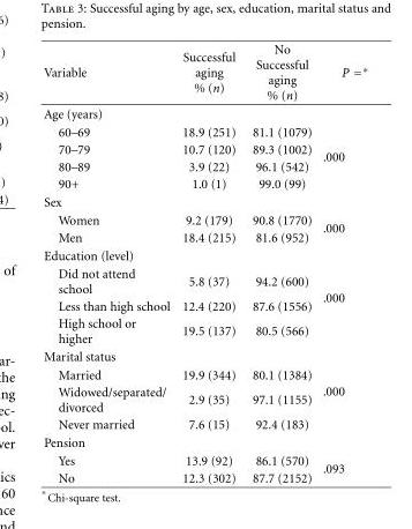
<table><thead><tr><td>Variable</td><td>Successful aging % (n)</td><td>No Successful aging % (n)</td><td>P =∗</td></tr></thead><tbody><tr><td colspan="4">Age (years)</td></tr><tr><td>60–69</td><td>18.9 (251)</td><td>81.1 (1079)</td><td rowspan="4">.000</td></tr><tr><td>70–79</td><td>10.7 (120)</td><td>89.3 (1002)</td></tr><tr><td>80–89</td><td>3.9 (22)</td><td>96.1 (542)</td></tr><tr><td>90+</td><td>1.0 (1)</td><td>99.0 (99)</td></tr><tr><td colspan="4">Sex</td></tr><tr><td>Women</td><td>9.2 (179)</td><td>90.8 (1770)</td><td rowspan="2">.000</td></tr><tr><td>Men</td><td>18.4 (215)</td><td>81.6 (952)</td></tr><tr><td colspan="4">Education (level)</td></tr><tr><td>Did not attend school</td><td>5.8 (37)</td><td>94.2 (600)</td><td rowspan="3">.000</td></tr><tr><td>Less than high school</td><td>12.4 (220)</td><td>87.6 (1556)</td></tr><tr><td>High school or higher</td><td>19.5 (137)</td><td>80.5 (566)</td></tr><tr><td colspan="4">Marital status</td></tr><tr><td>Married</td><td>19.9 (344)</td><td>80.1 (1384)</td><td rowspan="3">.000</td></tr><tr><td>Widowed/separated/ divorced</td><td>2.9 (35)</td><td>97.1 (1155)</td></tr><tr><td>Never married</td><td>7.6 (15)</td><td>92.4 (183)</td></tr><tr><td colspan="4">Pension</td></tr><tr><td>Yes</td><td>13.9 (92)</td><td>86.1 (570)</td><td rowspan="2">.093</td></tr><tr><td>No</td><td>12.3 (302)</td><td>87.7 (2152)</td></tr></tbody></table>